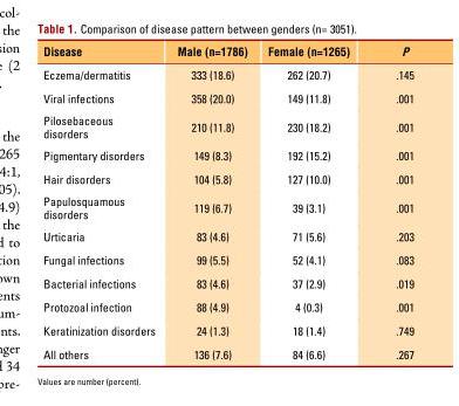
<table><thead><tr><td>Disease</td><td>Male (n=1786)</td><td>Female (n=1265)</td><td>P</td></tr></thead><tbody><tr><td>Eczema/dermatitis</td><td>333 (18.6)</td><td>262 (20.7)</td><td>.145</td></tr><tr><td>Viral infections</td><td>358 (20.0)</td><td>149 (11.8)</td><td>.001</td></tr><tr><td>Pilosebaceous disorders</td><td>210 (11.8)</td><td>230 (18.2)</td><td>.001</td></tr><tr><td>Pigmentary disorders</td><td>149 (8.3)</td><td>192 (15.2)</td><td>.001</td></tr><tr><td>Hair disorders</td><td>104 (5.8)</td><td>127 (10.0)</td><td>.001</td></tr><tr><td>Papulosquamous disorders</td><td>119 (6.7)</td><td>39 (3.1)</td><td>.001</td></tr><tr><td>Urticaria</td><td>83 (4.6)</td><td>71 (5.6)</td><td>.203</td></tr><tr><td>Fungal infections</td><td>99 (5.5)</td><td>52 (4.1)</td><td>.083</td></tr><tr><td>Bacterial infections</td><td>83 (4.6)</td><td>37 (2.9)</td><td>.019</td></tr><tr><td>Protozoal infection</td><td>88 (4.9)</td><td>4 (0.3)</td><td>.001</td></tr><tr><td>Keratinization disorders</td><td>24 (1.3)</td><td>18 (1.4)</td><td>.749</td></tr><tr><td>All others</td><td>136 (7.6)</td><td>84 (6.6)</td><td>.267</td></tr></tbody></table>